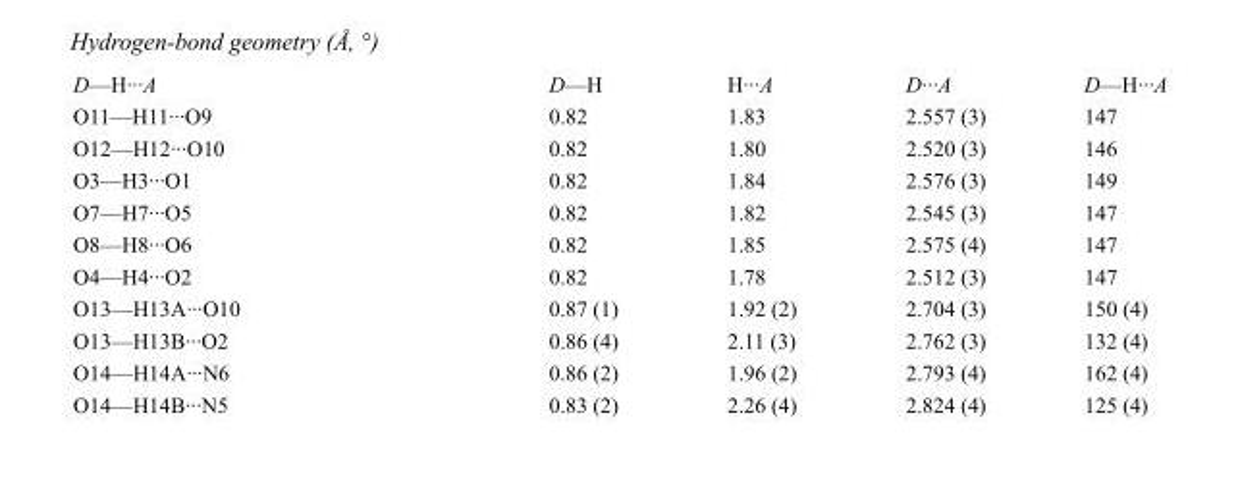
<table><tbody><tr><td>D—H···A</td><td>D—H</td><td>H···A</td><td>D···A</td><td>D—H···A</td></tr><tr><td>O11—H11···O9</td><td>0.82</td><td>1.83</td><td>2.557 (3)</td><td>147</td></tr><tr><td>O12—H12···O10</td><td>0.82</td><td>1.80</td><td>2.520 (3)</td><td>146</td></tr><tr><td>O3—H3···O1</td><td>0.82</td><td>1.84</td><td>2.576 (3)</td><td>149</td></tr><tr><td>O7—H7···O5</td><td>0.82</td><td>1.82</td><td>2.545 (3)</td><td>147</td></tr><tr><td>O8—H8···O6</td><td>0.82</td><td>1.85</td><td>2.575 (4)</td><td>147</td></tr><tr><td>O4—H4···O2</td><td>0.82</td><td>1.78</td><td>2.512 (3)</td><td>147</td></tr><tr><td>O13—H13A···O10</td><td>0.87 (1)</td><td>1.92 (2)</td><td>2.704 (3)</td><td>150 (4)</td></tr><tr><td>O13—H13B···O2</td><td>0.86 (4)</td><td>2.11 (3)</td><td>2.762 (3)</td><td>132 (4)</td></tr><tr><td>O14—H14A···N6</td><td>0.86 (2)</td><td>1.96 (2)</td><td>2.793 (4)</td><td>162 (4)</td></tr><tr><td>O14—H14B···N5</td><td>0.83 (2)</td><td>2.26 (4)</td><td>2.824 (4)</td><td>125 (4)</td></tr></tbody></table>